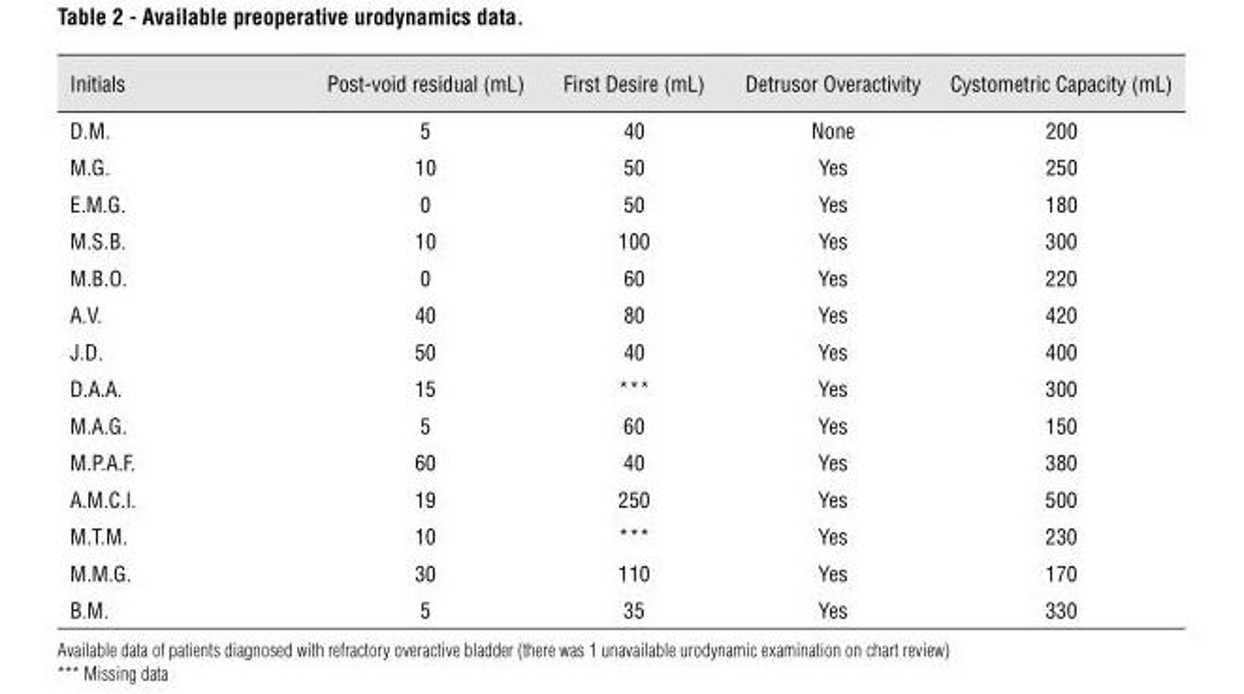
<table><thead><tr><td>Initials</td><td>Post-void residual (mL)</td><td>First Desire (mL)</td><td>Detrusor Overactivity</td><td>Cystometric Capacity (mL)</td></tr></thead><tbody><tr><td>D.M.</td><td>5</td><td>40</td><td>None</td><td>200</td></tr><tr><td>M.G.</td><td>10</td><td>50</td><td>Yes</td><td>250</td></tr><tr><td>E.M.G.</td><td>0</td><td>50</td><td>Yes</td><td>180</td></tr><tr><td>M.S.B.</td><td>10</td><td>100</td><td>Yes</td><td>300</td></tr><tr><td>M.B.O.</td><td>0</td><td>60</td><td>Yes</td><td>220</td></tr><tr><td>A.V.</td><td>40</td><td>80</td><td>Yes</td><td>420</td></tr><tr><td>J.D.</td><td>50</td><td>40</td><td>Yes</td><td>400</td></tr><tr><td>D.A.A.</td><td>15</td><td>***</td><td>Yes</td><td>300</td></tr><tr><td>M.A.G.</td><td>5</td><td>60</td><td>Yes</td><td>150</td></tr><tr><td>M.P.A.F.</td><td>60</td><td>40</td><td>Yes</td><td>380</td></tr><tr><td>A.M.C.l.</td><td>19</td><td>250</td><td>Yes</td><td>500</td></tr><tr><td>M.T.M.</td><td>10</td><td>***</td><td>Yes</td><td>230</td></tr><tr><td>M.M.G.</td><td>30</td><td>110</td><td>Yes</td><td>170</td></tr><tr><td>B.M.</td><td>5</td><td>35</td><td>Yes</td><td>330</td></tr></tbody></table>